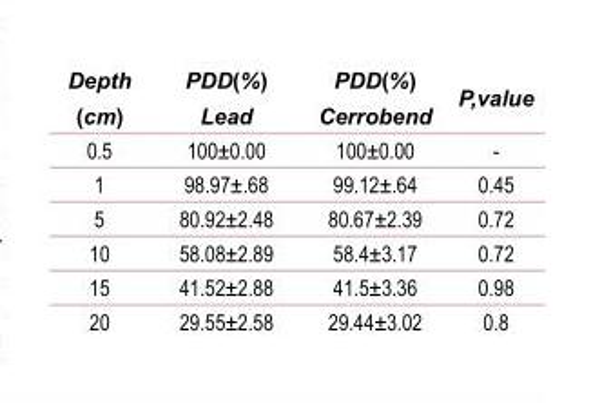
<table><thead><tr><td>Depth (cm)</td><td>PDD(%) Lead</td><td>PDD(%) Cerrobend</td><td>P,value</td></tr></thead><tbody><tr><td>0.5</td><td>100±0.00</td><td>100±0.00</td><td>-</td></tr><tr><td>1</td><td>98.97±.68</td><td>99.12±.64</td><td>0.45</td></tr><tr><td>5</td><td>80.92±2.48</td><td>80.67±2.39</td><td>0.72</td></tr><tr><td>10</td><td>58.08±2.89</td><td>58.4±3.17</td><td>0.72</td></tr><tr><td>15</td><td>41.52±2.88</td><td>41.5±3.36</td><td>0.98</td></tr><tr><td>20</td><td>29.55±2.58</td><td>29.44±3.02</td><td>0.8</td></tr></tbody></table>